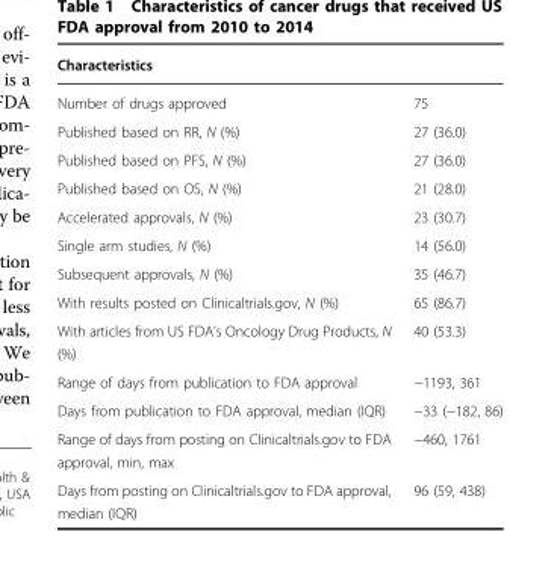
<table><thead><tr><td>Characteristics</td><td></td></tr></thead><tbody><tr><td>Number of drugs approved</td><td>75</td></tr><tr><td>Published based on RR, N (%)</td><td>27 (36.0)</td></tr><tr><td>Published based on PFS, N (%)</td><td>27 (36.0)</td></tr><tr><td>Published based on OS, N (%)</td><td>21 (28.0)</td></tr><tr><td>Accelerated approvals, N (%)</td><td>23 (30.7)</td></tr><tr><td>Single arm studies, N (%)</td><td>14 (56.0)</td></tr><tr><td>Subsequent approvals, N (%)</td><td>35 (46.7)</td></tr><tr><td>With results posted on Clinicaltrials.gov, N (%)</td><td>65 (86.7)</td></tr><tr><td>With articles from US FDA’s Oncology Drug Products, N (%)</td><td>40 (53.3)</td></tr><tr><td>Range of days from publication to FDA approval</td><td>−1193, 361</td></tr><tr><td>Days from publication to FDA approval, median (IQR)</td><td>−33 (−182, 86)</td></tr><tr><td>Range of days from posting on Clinicaltrials.gov to FDA approval, min, max</td><td>−460, 1761</td></tr><tr><td>Days from posting on Clinicaltrials.gov to FDA approval, median (IQR)</td><td>96 (59, 438)</td></tr></tbody></table>